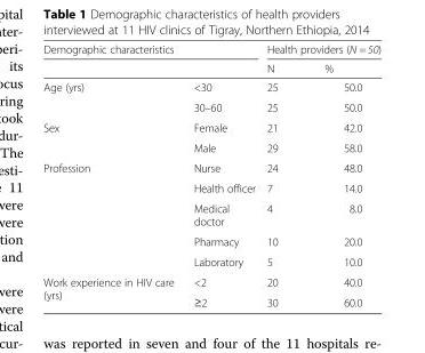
<table><thead><tr><td colspan="2">Demographic characteristics</td><td colspan="2">Health providers (N = 50)</td></tr><tr><td></td><td></td><td>N</td><td>%</td></tr></thead><tbody><tr><td rowspan="2">Age (yrs)</td><td>&lt;30</td><td>25</td><td>50.0</td></tr><tr><td>30–60</td><td>25</td><td>50.0</td></tr><tr><td rowspan="2">Sex</td><td>Female</td><td>21</td><td>42.0</td></tr><tr><td>Male</td><td>29</td><td>58.0</td></tr><tr><td rowspan="5">Profession</td><td>Nurse</td><td>24</td><td>48.0</td></tr><tr><td>Health officer</td><td>7</td><td>14.0</td></tr><tr><td>Medical doctor</td><td>4</td><td>8.0</td></tr><tr><td>Pharmacy</td><td>10</td><td>20.0</td></tr><tr><td>Laboratory</td><td>5</td><td>10.0</td></tr><tr><td rowspan="2">Work experience in HIV care (yrs)</td><td>&lt;2</td><td>20</td><td>40.0</td></tr><tr><td>≥2</td><td>30</td><td>60.0</td></tr></tbody></table>